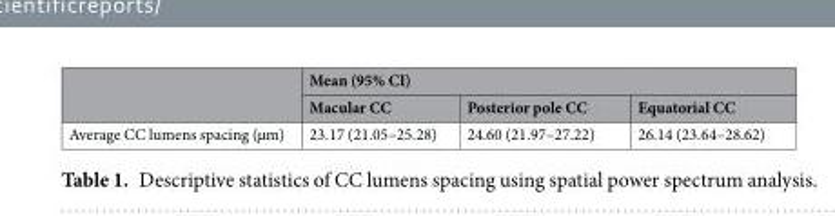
<table><thead><tr><td rowspan="2"></td><td colspan="3">Mean (95% CI)</td></tr><tr><td>Macular CC</td><td>Posterior pole CC</td><td>Equatorial CC</td></tr></thead><tbody><tr><td>Average CC lumens spacing (µm)</td><td>23.17 (21.05–25.28)</td><td>24.60 (21.97–27.22)</td><td>26.14 (23.64–28.62)</td></tr></tbody></table>